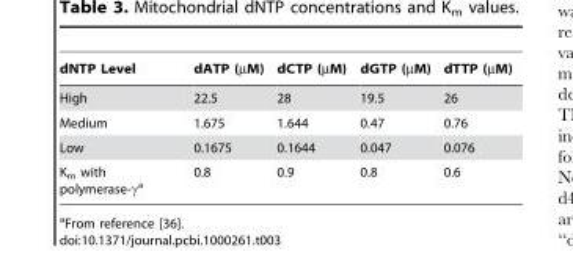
<table><thead><tr><td>dNTP Level</td><td>dATP (µM)</td><td>dCTP (µM)</td><td>dGTP (µM)</td><td>dTTP (µM)</td></tr></thead><tbody><tr><td>High</td><td>22.5</td><td>28</td><td>19.5</td><td>26</td></tr><tr><td>Medium</td><td>1.675</td><td>1.644</td><td>0.47</td><td>0.76</td></tr><tr><td>Low</td><td>0.1675</td><td>0.1644</td><td>0.047</td><td>0.076</td></tr><tr><td>K<sub>m</sub> with polymerase-γ<sup>a</sup></td><td>0.8</td><td>0.9</td><td>0.8</td><td>0.6</td></tr></tbody></table>